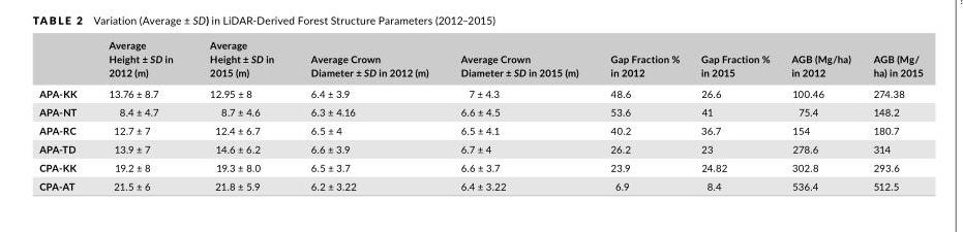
<table><thead><tr><td></td><td>Average Height ± SD in 2012 (m)</td><td>Average Height ± SD in 2015 (m)</td><td>Average Crown Diameter ± SD in 2012 (m)</td><td>Average Crown Diameter ± SD in 2015 (m)</td><td>Gap Fraction % in 2012</td><td>Gap Fraction % in 2015</td><td>AGB (Mg/ha) in 2012</td><td>AGB (Mg/ ha) in 2015</td></tr></thead><tbody><tr><td>APA-KK</td><td>13.76 ± 8.7</td><td>12.95 ± 8</td><td>6.4 ± 3.9</td><td>7 ± 4.3</td><td>48.6</td><td>26.6</td><td>100.46</td><td>274.38</td></tr><tr><td>APA-NT</td><td>8.4 ± 4.7</td><td>8.7 ± 4.6</td><td>6.3 ± 4.16</td><td>6.6 ± 4.5</td><td>53.6</td><td>41</td><td>75.4</td><td>148.2</td></tr><tr><td>APA-RC</td><td>12.7 ± 7</td><td>12.4 ± 6.7</td><td>6.5 ± 4</td><td>6.5 ± 4.1</td><td>40.2</td><td>36.7</td><td>154</td><td>180.7</td></tr><tr><td>APA-TD</td><td>13.9 ± 7</td><td>14.6 ± 6.2</td><td>6.6 ± 3.9</td><td>6.7 ± 4</td><td>26.2</td><td>23</td><td>278.6</td><td>314</td></tr><tr><td>CPA-KK</td><td>19.2 ± 8</td><td>19.3 ± 8.0</td><td>6.5 ± 3.7</td><td>6.6 ± 3.7</td><td>23.9</td><td>24.82</td><td>302.8</td><td>293.6</td></tr><tr><td>CPA-AT</td><td>21.5 ± 6</td><td>21.8 ± 5.9</td><td>6.2 ± 3.22</td><td>6.4 ± 3.22</td><td>6.9</td><td>8.4</td><td>536.4</td><td>512.5</td></tr></tbody></table>